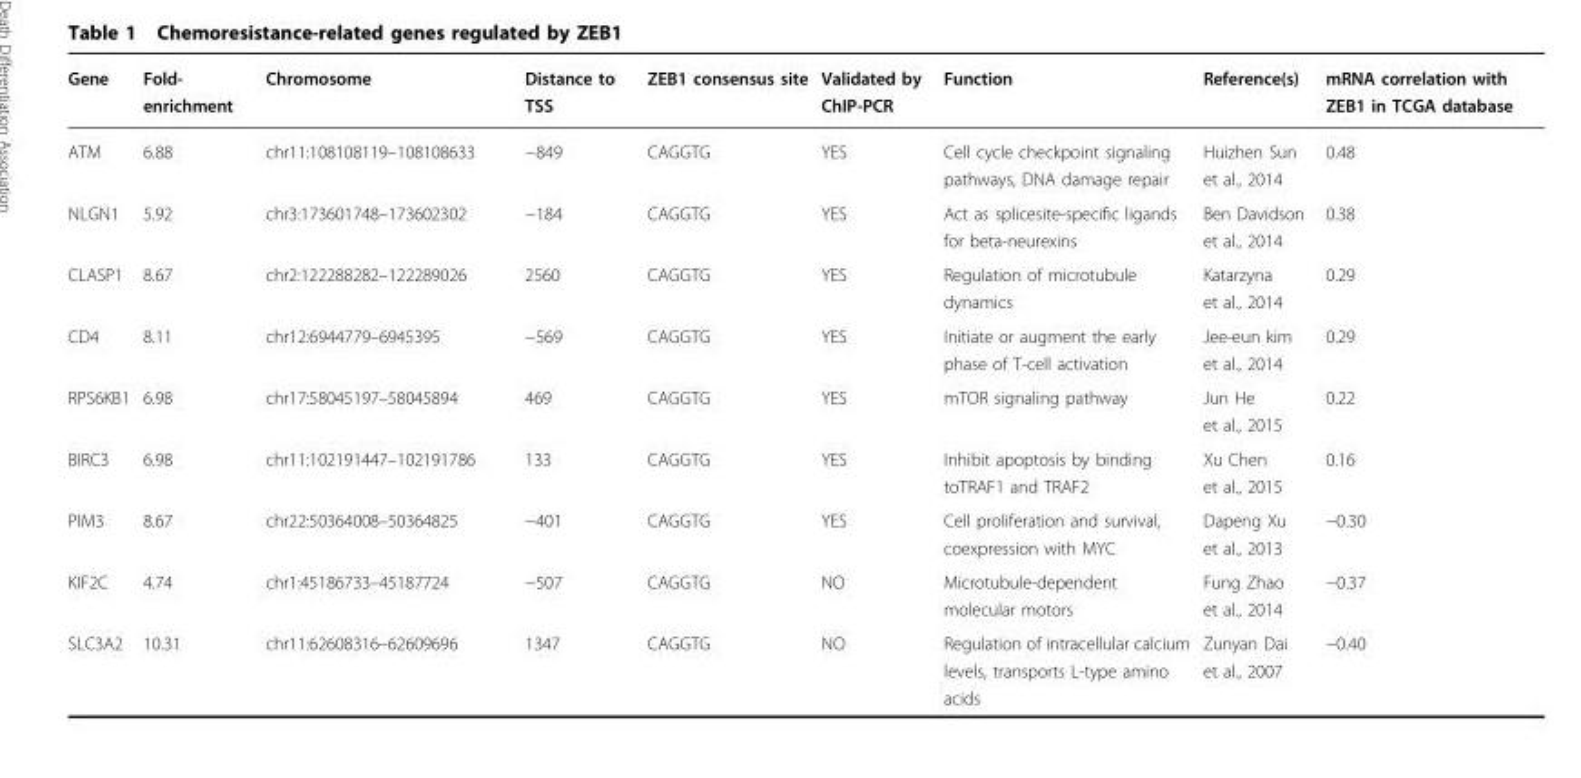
<table><thead><tr><td>Gene</td><td>Fold- enrichment</td><td>Chromosome</td><td>Distance to TSS</td><td>ZEB1 consensus site</td><td>Validated by ChIP-PCR</td><td>Function</td><td>Reference(s)</td><td>mRNA correlation with ZEB1 in TCGA database</td></tr></thead><tbody><tr><td>ATM</td><td>6.88</td><td>chr11:108108119–108108633</td><td>−849</td><td>CAGGTG</td><td>YES</td><td>Cell cycle checkpoint signaling pathways, DNA damage repair</td><td>Huizhen Sun et al., 2014</td><td>0.48</td></tr><tr><td>NLGN1</td><td>5.92</td><td>chr3:173601748–173602302</td><td>−184</td><td>CAGGTG</td><td>YES</td><td>Act as splicesite-specific ligands for beta-neurexins</td><td>Ben Davidson et al., 2014</td><td>0.38</td></tr><tr><td>CLASP1</td><td>8.67</td><td>chr2:122288282–122289026</td><td>2560</td><td>CAGGTG</td><td>YES</td><td>Regulation of microtubule dynamics</td><td>Katarzyna et al., 2014</td><td>0.29</td></tr><tr><td>CD4</td><td>8.11</td><td>chr12:6944779–6945395</td><td>−569</td><td>CAGGTG</td><td>YES</td><td>Initiate or augment the early phase of T-cell activation</td><td>Jee-eun kim et al., 2014</td><td>0.29</td></tr><tr><td>RPS6KB1</td><td>6.98</td><td>chr17:58045197–58045894</td><td>469</td><td>CAGGTG</td><td>YES</td><td>mTOR signaling pathway</td><td>Jun He et al., 2015</td><td>0.22</td></tr><tr><td>BIRC3</td><td>6.98</td><td>chr11:102191447–102191786</td><td>133</td><td>CAGGTG</td><td>YES</td><td>Inhibit apoptosis by binding toTRAF1 and TRAF2</td><td>Xu Chen et al., 2015</td><td>0.16</td></tr><tr><td>PIM3</td><td>8.67</td><td>chr22:50364008–50364825</td><td>−401</td><td>CAGGTG</td><td>YES</td><td>Cell proliferation and survival, coexpression with MYC</td><td>Dapeng Xu et al., 2013</td><td>−0.30</td></tr><tr><td>KIF2C</td><td>4.74</td><td>chr1:45186733–45187724</td><td>−507</td><td>CAGGTG</td><td>NO</td><td>Microtubule-dependent molecular motors</td><td>Fung Zhao et al., 2014</td><td>−0.37</td></tr><tr><td>SLC3A2</td><td>10.31</td><td>chr11:62608316–62609696</td><td>1347</td><td>CAGGTG</td><td>NO</td><td>Regulation of intracellular calcium levels, transports L-type amino acids</td><td>Zunyan Dai et al., 2007</td><td>−0.40</td></tr></tbody></table>